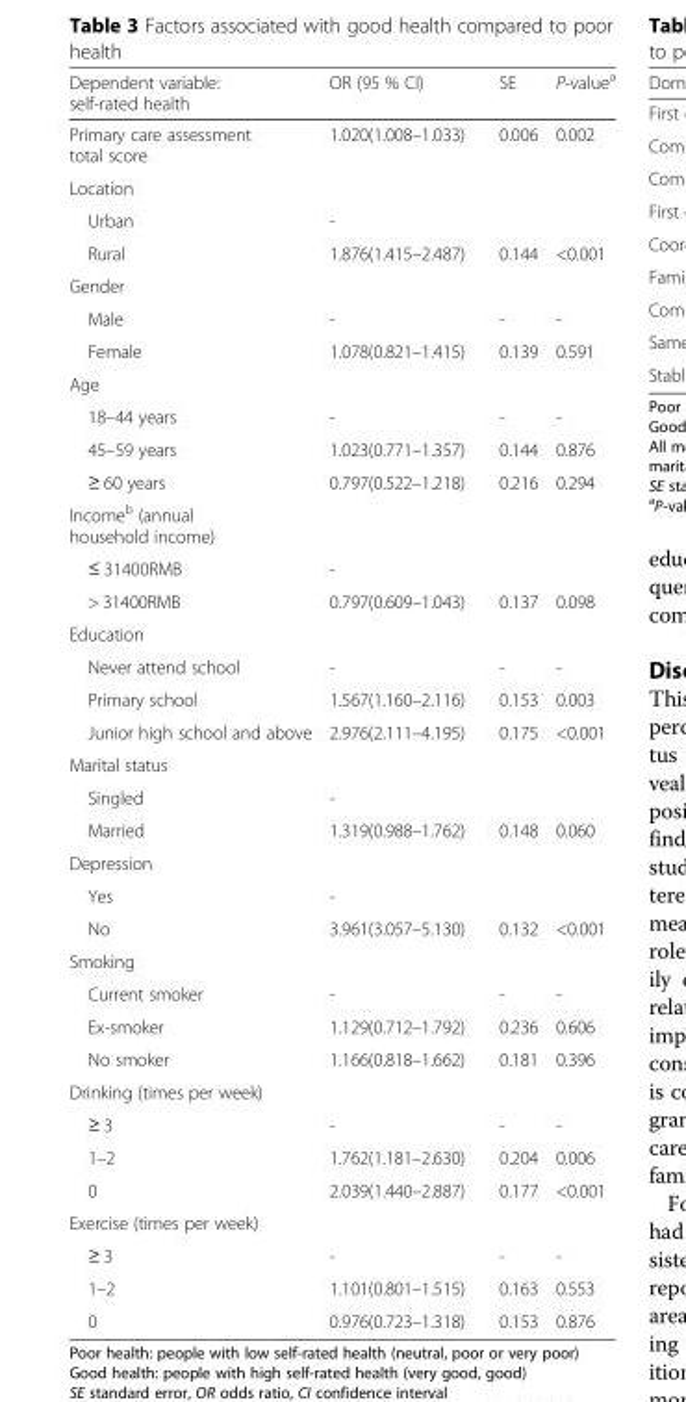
<table><thead><tr><td>Dependent variable: self-rated health</td><td>OR (95 % CI)</td><td>SE</td><td>P-value<sup>a</sup></td></tr></thead><tbody><tr><td>Primary care assessment total score</td><td>1.020(1.008–1.033)</td><td>0.006</td><td>0.002</td></tr><tr><td colspan="4">Location</td></tr><tr><td>Urban</td><td>-</td><td></td><td></td></tr><tr><td>Rural</td><td>1.876(1.415–2.487)</td><td>0.144</td><td>&lt;0.001</td></tr><tr><td colspan="4">Gender</td></tr><tr><td>Male</td><td>-</td><td>-</td><td>-</td></tr><tr><td>Female</td><td>1.078(0.821–1.415)</td><td>0.139</td><td>0.591</td></tr><tr><td colspan="4">Age</td></tr><tr><td>18–44 years</td><td>-</td><td>-</td><td>-</td></tr><tr><td>45–59 years</td><td>1.023(0.771–1.357)</td><td>0.144</td><td>0.876</td></tr><tr><td>≥ 60 years</td><td>0.797(0.522–1.218)</td><td>0.216</td><td>0.294</td></tr><tr><td colspan="4">Income<sup>b</sup> (annual household income)</td></tr><tr><td>≤ 31400RMB</td><td>-</td><td></td><td></td></tr><tr><td>&gt; 31400RMB</td><td>0.797(0.609–1.043)</td><td>0.137</td><td>0.098</td></tr><tr><td colspan="4">Education</td></tr><tr><td>Never attend school</td><td>-</td><td>-</td><td>-</td></tr><tr><td>Primary school</td><td>1.567(1.160–2.116)</td><td>0.153</td><td>0.003</td></tr><tr><td>Junior high school and above</td><td>2.976(2.111–4.195)</td><td>0.175</td><td>&lt;0.001</td></tr><tr><td colspan="4">Marital status</td></tr><tr><td>Singled</td><td>-</td><td></td><td></td></tr><tr><td>Married</td><td>1.319(0.988–1.762)</td><td>0.148</td><td>0.060</td></tr><tr><td colspan="4">Depression</td></tr><tr><td>Yes</td><td>-</td><td></td><td></td></tr><tr><td>No</td><td>3.961(3.057–5.130)</td><td>0.132</td><td>&lt;0.001</td></tr><tr><td colspan="4">Smoking</td></tr><tr><td>Current smoker</td><td>-</td><td>-</td><td>-</td></tr><tr><td>Ex-smoker</td><td>1.129(0.712–1.792)</td><td>0.236</td><td>0.606</td></tr><tr><td>No smoker</td><td>1.166(0.818–1.662)</td><td>0.181</td><td>0.396</td></tr><tr><td colspan="4">Drinking (times per week)</td></tr><tr><td>≥ 3</td><td>-</td><td>-</td><td>-</td></tr><tr><td>1–2</td><td>1.762(1.181–2.630)</td><td>0.204</td><td>0.006</td></tr><tr><td>0</td><td>2.039(1.440–2.887)</td><td>0.177</td><td>&lt;0.001</td></tr><tr><td colspan="4">Exercise (times per week)</td></tr><tr><td>≥ 3</td><td>-</td><td>-</td><td>-</td></tr><tr><td>1–2</td><td>1.101(0.801–1.515)</td><td>0.163</td><td>0.553</td></tr><tr><td>0</td><td>0.976(0.723–1.318)</td><td>0.153</td><td>0.876</td></tr></tbody></table>